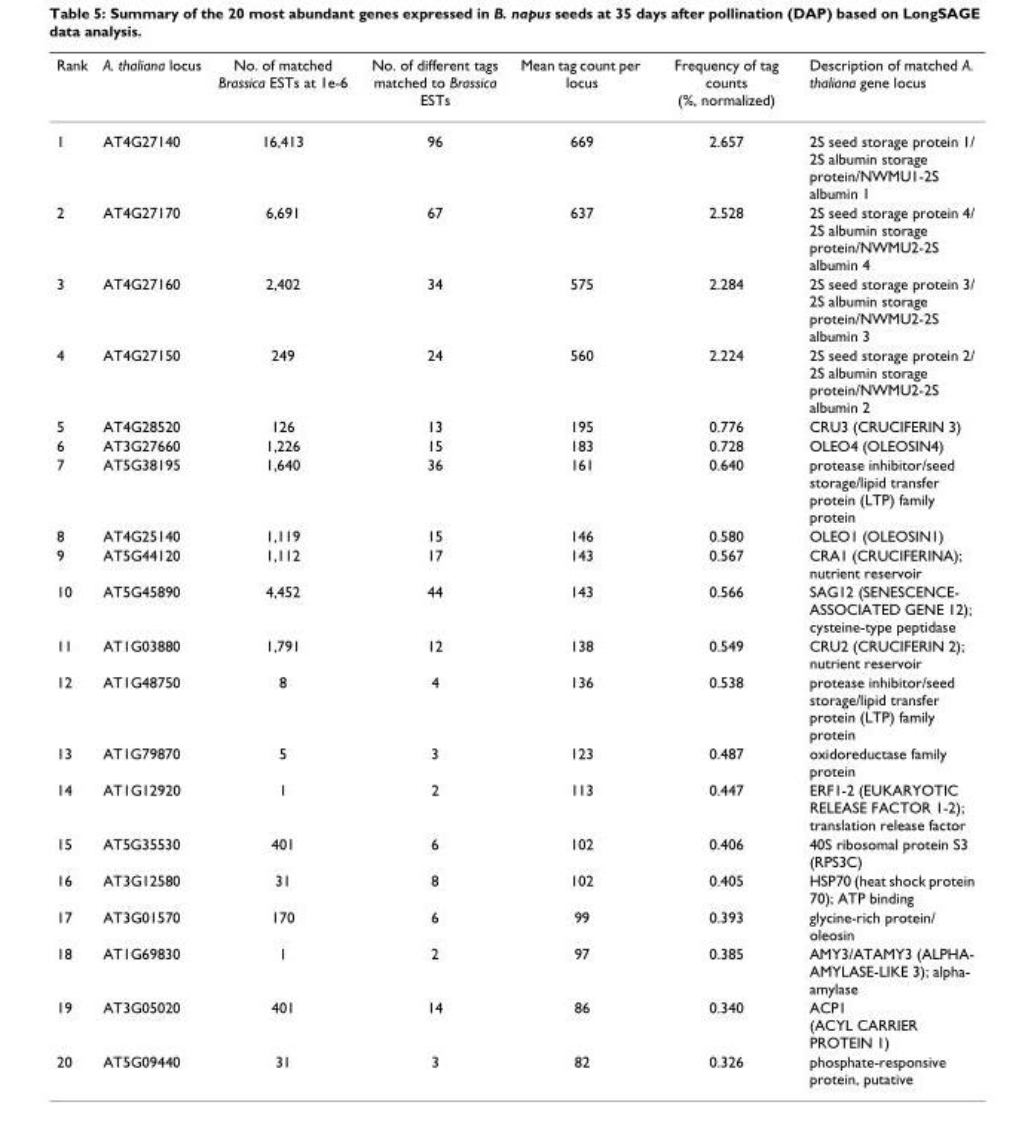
<table><thead><tr><td>Rank</td><td>A. thaliana locus</td><td>No. of matched Brassica ESTs at 1e-6</td><td>No. of different tags matched to Brassica ESTs</td><td>Mean tag count per locus</td><td>Frequency of tag counts (%, normalized)</td><td>Description of matched A. thaliana gene locus</td></tr></thead><tbody><tr><td>1</td><td>AT4G27140</td><td>16,413</td><td>96</td><td>669</td><td>2.657</td><td>2S seed storage protein 1/ 2S albumin storage protein/NWMU1-2S albumin 1</td></tr><tr><td>2</td><td>AT4G27170</td><td>6,691</td><td>67</td><td>637</td><td>2.528</td><td>2S seed storage protein 4/ 2S albumin storage protein/NWMU2-2S albumin 4</td></tr><tr><td>3</td><td>AT4G27160</td><td>2,402</td><td>34</td><td>575</td><td>2.284</td><td>2S seed storage protein 3/ 2S albumin storage protein/NWMU2-2S albumin 3</td></tr><tr><td>4</td><td>AT4G27150</td><td>249</td><td>24</td><td>560</td><td>2.224</td><td>2S seed storage protein 2/ 2S albumin storage protein/NWMU2-2S albumin 2</td></tr><tr><td>5</td><td>AT4G28520</td><td>126</td><td>13</td><td>195</td><td>0.776</td><td>CRU3 (CRUCIFERIN 3)</td></tr><tr><td>6</td><td>AT3G27660</td><td>1,226</td><td>15</td><td>183</td><td>0.728</td><td>OLEO4 (OLEOSIN4)</td></tr><tr><td>7</td><td>AT5G38195</td><td>1,640</td><td>36</td><td>161</td><td>0.640</td><td>protease inhibitor/seed storage/lipid transfer protein (LTP) family protein</td></tr><tr><td>8</td><td>AT4G25140</td><td>1,119</td><td>15</td><td>146</td><td>0.580</td><td>OLEO1 (OLEOSIN1)</td></tr><tr><td>9</td><td>AT5G44120</td><td>1,112</td><td>17</td><td>143</td><td>0.567</td><td>CRA1 (CRUCIFERINA); nutrient reservoir</td></tr><tr><td>10</td><td>AT5G45890</td><td>4,452</td><td>44</td><td>143</td><td>0.566</td><td>SAG12 (SENESCENCE- ASSOCIATED GENE 12); cysteine-type peptidase</td></tr><tr><td>11</td><td>AT1G03880</td><td>1,791</td><td>12</td><td>138</td><td>0.549</td><td>CRU2 (CRUCIFERIN 2); nutrient reservoir</td></tr><tr><td>12</td><td>AT1G48750</td><td>8</td><td>4</td><td>136</td><td>0.538</td><td>protease inhibitor/seed storage/lipid transfer protein (LTP) family protein</td></tr><tr><td>13</td><td>AT1G79870</td><td>5</td><td>3</td><td>123</td><td>0.487</td><td>oxidoreductase family protein</td></tr><tr><td>14</td><td>AT1G12920</td><td>1</td><td>2</td><td>113</td><td>0.447</td><td>ERF1-2 (EUKARYOTIC RELEASE FACTOR 1-2); translation release factor</td></tr><tr><td>15</td><td>AT5G35530</td><td>401</td><td>6</td><td>102</td><td>0.406</td><td>40S ribosomal protein S3 (RPS3C)</td></tr><tr><td>16</td><td>AT3G12580</td><td>31</td><td>8</td><td>102</td><td>0.405</td><td>HSP70 (heat shock protein 70); ATP binding</td></tr><tr><td>17</td><td>AT3G01570</td><td>170</td><td>6</td><td>99</td><td>0.393</td><td>glycine-rich protein/ oleosin</td></tr><tr><td>18</td><td>AT1G69830</td><td>1</td><td>2</td><td>97</td><td>0.385</td><td>AMY3/ATAMY3 (ALPHA- AMYLASE-LIKE 3); alpha- amylase</td></tr><tr><td>19</td><td>AT3G05020</td><td>401</td><td>14</td><td>86</td><td>0.340</td><td>ACP1 (ACYL CARRIER PROTEIN 1)</td></tr><tr><td>20</td><td>AT5G09440</td><td>31</td><td>3</td><td>82</td><td>0.326</td><td>phosphate-responsive protein, putative</td></tr></tbody></table>